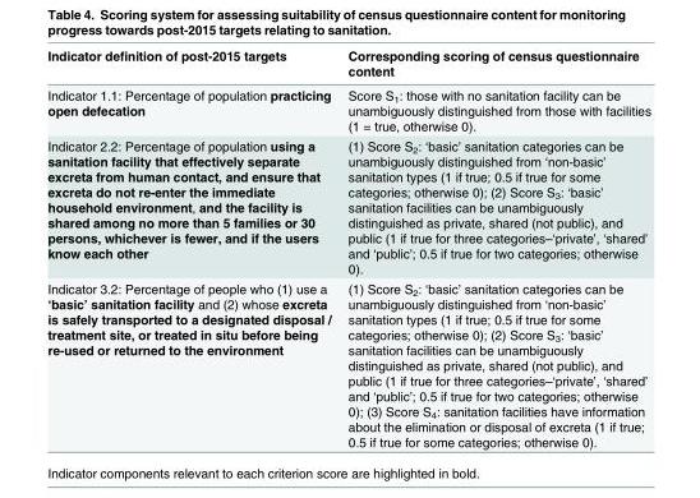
<table><thead><tr><td>Indicator definition of post-2015 targets</td><td>Corresponding scoring of census questionnaire content</td></tr></thead><tbody><tr><td>Indicator 1.1: Percentage of population practicing open defecation</td><td>Score S<sub>1</sub>: those with no sanitation facility can be unambiguously distinguished from those with facilities (1 = true, otherwise 0).</td></tr><tr><td>Indicator 2.2: Percentage of population using a sanitation facility that effectively separate excreta from human contact, and ensure that excreta do not re-enter the immediate household environment, and the facility is shared among no more than 5 families or 30 persons, whichever is fewer, and if the users know each other</td><td>(1) Score S<sub>2</sub>: ‘basic’ sanitation categories can be unambiguously distinguished from ‘non-basic’ sanitation types (1 if true; 0.5 if true for some categories; otherwise 0); (2) Score S<sub>3</sub>: ‘basic’ sanitation facilities can be unambiguously distinguished as private, shared (not public), and public (1 if true for three categories–‘private’, ‘shared’ and ‘public’; 0.5 if true for two categories; otherwise 0).</td></tr><tr><td>Indicator 3.2: Percentage of people who (1) use a ‘basic’ sanitation facility and (2) whose excreta is safely transported to a designated disposal / treatment site, or treated in situ before being re-used or returned to the environment</td><td>(1) Score S<sub>2</sub>: ‘basic’ sanitation categories can be unambiguously distinguished from ‘non-basic’ sanitation types (1 if true; 0.5 if true for some categories; otherwise 0); (2) Score S<sub>3</sub>: ‘basic’ sanitation facilities can be unambiguously distinguished as private, shared (not public), and public (1 if true for three categories–‘private’, ‘shared’ and ‘public’; 0.5 if true for two categories; otherwise 0); (3) Score S<sub>4</sub>: sanitation facilities have information about the elimination or disposal of excreta (1 if true; 0.5 if true for some categories; otherwise 0).</td></tr></tbody></table>